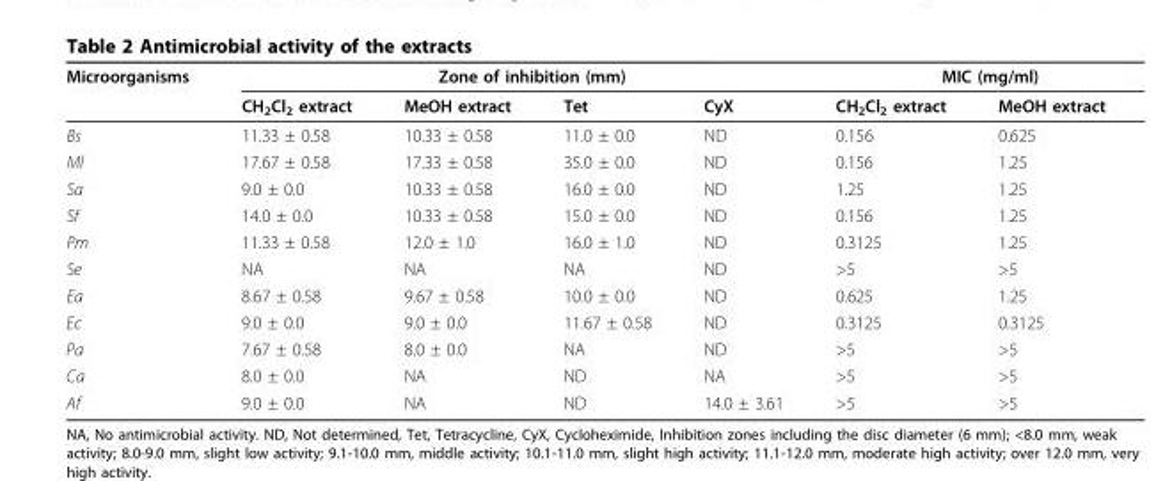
<table><thead><tr><td rowspan="2">Microorganisms</td><td colspan="4">Zone of inhibition (mm)</td><td colspan="2">MIC (mg/ml)</td></tr><tr><td>CH<sub>2</sub>Cl<sub>2</sub> extract</td><td>MeOH extract</td><td>Tet</td><td>CyX</td><td>CH<sub>2</sub>Cl<sub>2</sub> extract</td><td>MeOH extract</td></tr></thead><tbody><tr><td>Bs</td><td>11.33 ± 0.58</td><td>10.33 ± 0.58</td><td>11.0 ± 0.0</td><td>ND</td><td>0.156</td><td>0.625</td></tr><tr><td>Ml</td><td>17.67 ± 0.58</td><td>17.33 ± 0.58</td><td>35.0 ± 0.0</td><td>ND</td><td>0.156</td><td>1.25</td></tr><tr><td>Sa</td><td>9.0 ± 0.0</td><td>10.33 ± 0.58</td><td>16.0 ± 0.0</td><td>ND</td><td>1.25</td><td>1.25</td></tr><tr><td>Sf</td><td>14.0 ± 0.0</td><td>10.33 ± 0.58</td><td>15.0 ± 0.0</td><td>ND</td><td>0.156</td><td>1.25</td></tr><tr><td>Pm</td><td>11.33 ± 0.58</td><td>12.0 ± 1.0</td><td>16.0 ± 1.0</td><td>ND</td><td>0.3125</td><td>1.25</td></tr><tr><td>Se</td><td>NA</td><td>NA</td><td>NA</td><td>ND</td><td>&gt;5</td><td>&gt;5</td></tr><tr><td>Ea</td><td>8.67 ± 0.58</td><td>9.67 ± 0.58</td><td>10.0 ± 0.0</td><td>ND</td><td>0.625</td><td>1.25</td></tr><tr><td>Ec</td><td>9.0 ± 0.0</td><td>9.0 ± 0.0</td><td>11.67 ± 0.58</td><td>ND</td><td>0.3125</td><td>0.3125</td></tr><tr><td>Pa</td><td>7.67 ± 0.58</td><td>8.0 ± 0.0</td><td>NA</td><td>ND</td><td>&gt;5</td><td>&gt;5</td></tr><tr><td>Ca</td><td>8.0 ± 0.0</td><td>NA</td><td>ND</td><td>NA</td><td>&gt;5</td><td>&gt;5</td></tr><tr><td>Af</td><td>9.0 ± 0.0</td><td>NA</td><td>ND</td><td>14.0 ± 3.61</td><td>&gt;5</td><td>&gt;5</td></tr></tbody></table>